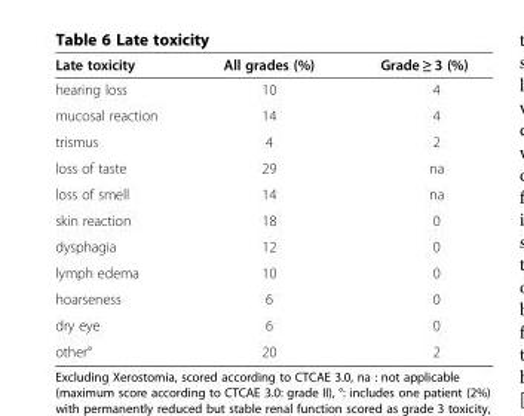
<table><thead><tr><td>Late toxicity</td><td>All grades (%)</td><td>Grade ≥ 3 (%)</td></tr></thead><tbody><tr><td>hearing loss</td><td>10</td><td>4</td></tr><tr><td>mucosal reaction</td><td>14</td><td>4</td></tr><tr><td>trismus</td><td>4</td><td>2</td></tr><tr><td>loss of taste</td><td>29</td><td>na</td></tr><tr><td>loss of smell</td><td>14</td><td>na</td></tr><tr><td>skin reaction</td><td>18</td><td>0</td></tr><tr><td>dysphagia</td><td>12</td><td>0</td></tr><tr><td>lymph edema</td><td>10</td><td>0</td></tr><tr><td>hoarseness</td><td>6</td><td>0</td></tr><tr><td>dry eye</td><td>6</td><td>0</td></tr><tr><td>other°</td><td>20</td><td>2</td></tr></tbody></table>